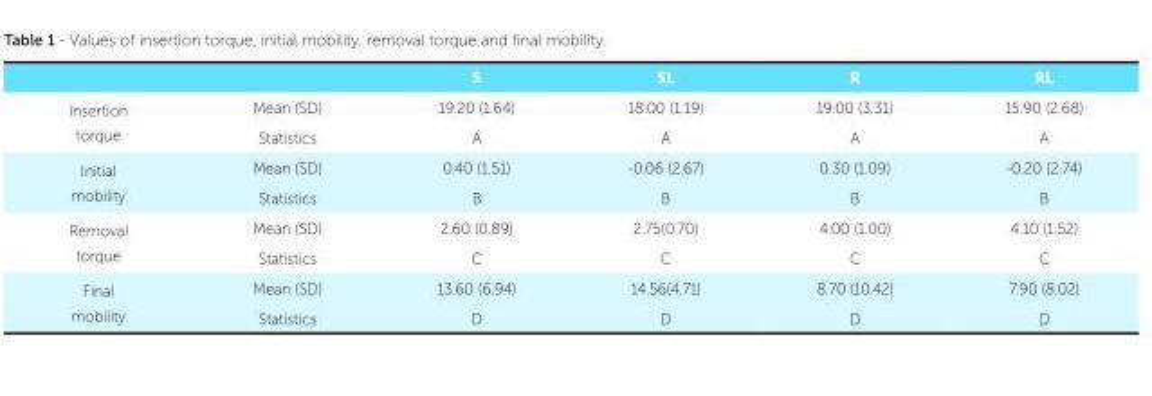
<table><thead><tr><td></td><td></td><td>S</td><td>SL</td><td>R</td><td>RL</td></tr></thead><tbody><tr><td rowspan="2">Insertion torque</td><td>Mean (SD)</td><td>19.20 (1.64)</td><td>18.00 (1.19)</td><td>19.00 (3.31)</td><td>15.90 (2.68)</td></tr><tr><td>Statistics</td><td>A</td><td>A</td><td>A</td><td>A</td></tr><tr><td rowspan="2">Initial mobility</td><td>Mean (SD)</td><td>0.40 (1.51)</td><td>-0.06 (2.67)</td><td>0.30 (1.09)</td><td>-0.20 (2.74)</td></tr><tr><td>Statistics</td><td>B</td><td>B</td><td>B</td><td>B</td></tr><tr><td rowspan="2">Removal torque</td><td>Mean (SD)</td><td>2.60 (0.89)</td><td>2.75(0.70)</td><td>4.00 (1.00)</td><td>4.10 (1.52)</td></tr><tr><td>Statistics</td><td>C</td><td>C</td><td>C</td><td>C</td></tr><tr><td rowspan="2">Final mobility</td><td>Mean (SD)</td><td>13.60 (6.94)</td><td>14.56(4.71)</td><td>8.70 (10.42)</td><td>7.90 (8.02)</td></tr><tr><td>Statistics</td><td>D</td><td>D</td><td>D</td><td>D</td></tr></tbody></table>